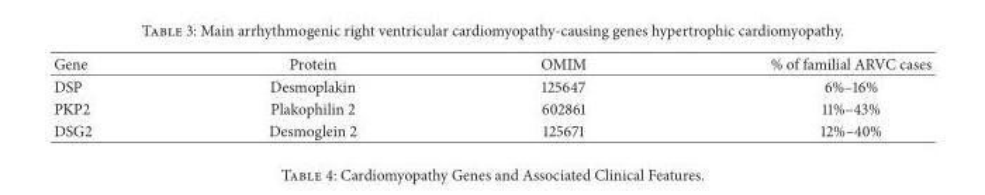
<table><thead><tr><td>Gene</td><td>Protein</td><td>OMIM</td><td>% of familial ARVC cases</td></tr></thead><tbody><tr><td>DSP</td><td>Desmoplakin</td><td>125647</td><td>6%–16%</td></tr><tr><td>PKP2</td><td>Plakophilin 2</td><td>602861</td><td>11%–43%</td></tr><tr><td>DSG2</td><td>Desmoglein 2</td><td>125671</td><td>12%–40%</td></tr></tbody></table>